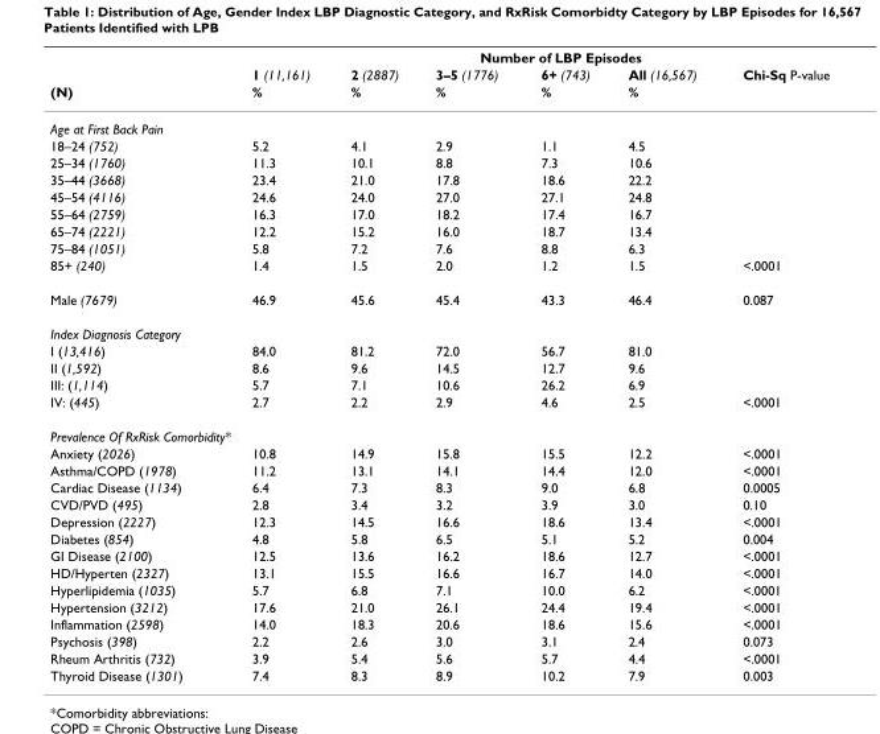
<table><thead><tr><td rowspan="3">(N)</td><td colspan="6">Number of LBP Episodes</td></tr><tr><td rowspan="2">1 (11,161) %</td><td rowspan="2">2 (2887) %</td><td rowspan="2">3–5 (1776) %</td><td rowspan="2">6+ (743) %</td><td rowspan="2">All (16,567) %</td><td rowspan="2">Chi-Sq P-value</td></tr><tr></tr></thead><tbody><tr><td colspan="7">Age at First Back Pain</td></tr><tr><td>18–24 (752)</td><td>5.2</td><td>4.1</td><td>2.9</td><td>1.1</td><td>4.5</td><td></td></tr><tr><td>25–34 (1760)</td><td>11.3</td><td>10.1</td><td>8.8</td><td>7.3</td><td>10.6</td><td></td></tr><tr><td>35–44 (3668)</td><td>23.4</td><td>21.0</td><td>17.8</td><td>18.6</td><td>22.2</td><td></td></tr><tr><td>45–54 (4116)</td><td>24.6</td><td>24.0</td><td>27.0</td><td>27.1</td><td>24.8</td><td></td></tr><tr><td>55–64 (2759)</td><td>16.3</td><td>17.0</td><td>18.2</td><td>17.4</td><td>16.7</td><td></td></tr><tr><td>65–74 (2221)</td><td>12.2</td><td>15.2</td><td>16.0</td><td>18.7</td><td>13.4</td><td></td></tr><tr><td>75–84 (1051)</td><td>5.8</td><td>7.2</td><td>7.6</td><td>8.8</td><td>6.3</td><td></td></tr><tr><td>85+ (240)</td><td>1.4</td><td>1.5</td><td>2.0</td><td>1.2</td><td>1.5</td><td>&lt;.0001</td></tr><tr><td>Male (7679)</td><td>46.9</td><td>45.6</td><td>45.4</td><td>43.3</td><td>46.4</td><td>0.087</td></tr><tr><td colspan="7">Index Diagnosis Category</td></tr><tr><td>I (13,416)</td><td>84.0</td><td>81.2</td><td>72.0</td><td>56.7</td><td>81.0</td><td></td></tr><tr><td>II (1,592)</td><td>8.6</td><td>9.6</td><td>14.5</td><td>12.7</td><td>9.6</td><td></td></tr><tr><td>III: (1,114)</td><td>5.7</td><td>7.1</td><td>10.6</td><td>26.2</td><td>6.9</td><td></td></tr><tr><td>IV: (445)</td><td>2.7</td><td>2.2</td><td>2.9</td><td>4.6</td><td>2.5</td><td>&lt;.0001</td></tr><tr><td colspan="7">Prevalence Of RxRisk Comorbidity*</td></tr><tr><td>Anxiety (2026)</td><td>10.8</td><td>14.9</td><td>15.8</td><td>15.5</td><td>12.2</td><td>&lt;.0001</td></tr><tr><td>Asthma/COPD (1978)</td><td>11.2</td><td>13.1</td><td>14.1</td><td>14.4</td><td>12.0</td><td>&lt;.0001</td></tr><tr><td>Cardiac Disease (1134)</td><td>6.4</td><td>7.3</td><td>8.3</td><td>9.0</td><td>6.8</td><td>0.0005</td></tr><tr><td>CVD/PVD (495)</td><td>2.8</td><td>3.4</td><td>3.2</td><td>3.9</td><td>3.0</td><td>0.10</td></tr><tr><td>Depression (2227)</td><td>12.3</td><td>14.5</td><td>16.6</td><td>18.6</td><td>13.4</td><td>&lt;.0001</td></tr><tr><td>Diabetes (854)</td><td>4.8</td><td>5.8</td><td>6.5</td><td>5.1</td><td>5.2</td><td>0.004</td></tr><tr><td>GI Disease (2100)</td><td>12.5</td><td>13.6</td><td>16.2</td><td>18.6</td><td>12.7</td><td>&lt;.0001</td></tr><tr><td>HD/Hyperten (2327)</td><td>13.1</td><td>15.5</td><td>16.6</td><td>16.7</td><td>14.0</td><td>&lt;.0001</td></tr><tr><td>Hyperlipidemia (1035)</td><td>5.7</td><td>6.8</td><td>7.1</td><td>10.0</td><td>6.2</td><td>&lt;.0001</td></tr><tr><td>Hypertension (3212)</td><td>17.6</td><td>21.0</td><td>26.1</td><td>24.4</td><td>19.4</td><td>&lt;.0001</td></tr><tr><td>Inflammation (2598)</td><td>14.0</td><td>18.3</td><td>20.6</td><td>18.6</td><td>15.6</td><td>&lt;.0001</td></tr><tr><td>Psychosis (398)</td><td>2.2</td><td>2.6</td><td>3.0</td><td>3.1</td><td>2.4</td><td>0.073</td></tr><tr><td>Rheum Arthritis (732)</td><td>3.9</td><td>5.4</td><td>5.6</td><td>5.7</td><td>4.4</td><td>&lt;.0001</td></tr><tr><td>Thyroid Disease (1301)</td><td>7.4</td><td>8.3</td><td>8.9</td><td>10.2</td><td>7.9</td><td>0.003</td></tr></tbody></table>